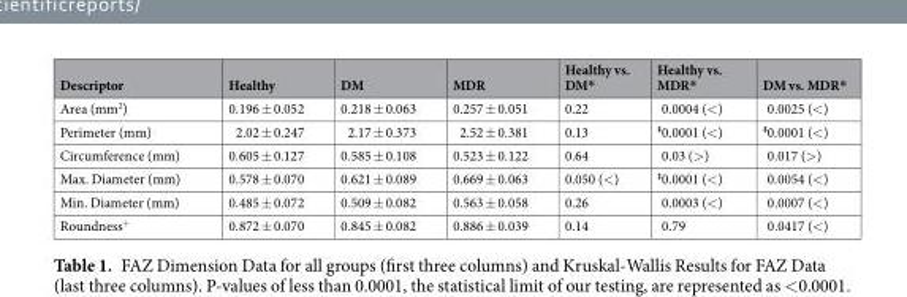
<table><thead><tr><td>Descriptor</td><td>Healthy</td><td>DM</td><td>MDR</td><td>Healthy vs. DM*</td><td>Healthy vs. MDR*</td><td>DM vs. MDR*</td></tr></thead><tbody><tr><td>Area (mm<sup>2</sup>)</td><td>0.196 ± 0.052</td><td>0.218 ± 0.063</td><td>0.257 ± 0.051</td><td>0.22</td><td>0.0004 (&lt;)</td><td>0.0025 (&lt;)</td></tr><tr><td>Perimeter (mm)</td><td>2.02 ± 0.247</td><td>2.17 ± 0.373</td><td>2.52 ± 0.381</td><td>0.13</td><td><sup>‡</sup>0.0001 (&lt;)</td><td><sup>‡</sup>0.0001 (&lt;)</td></tr><tr><td>Circumference (mm)</td><td>0.605 ± 0.127</td><td>0.585 ± 0.108</td><td>0.523 ± 0.122</td><td>0.64</td><td>0.03 (&gt;)</td><td>0.017 (&gt;)</td></tr><tr><td>Max. Diameter (mm)</td><td>0.578 ± 0.070</td><td>0.621 ± 0.089</td><td>0.669 ± 0.063</td><td>0.050 (&lt;)</td><td><sup>‡</sup>0.0001 (&lt;)</td><td>0.0054 (&lt;)</td></tr><tr><td>Min. Diameter (mm)</td><td>0.485 ± 0.072</td><td>0.509 ± 0.082</td><td>0.563 ± 0.058</td><td>0.26</td><td>0.0003 (&lt;)</td><td>0.0007 (&lt;)</td></tr><tr><td>Roundness<sup>+</sup></td><td>0.872 ± 0.070</td><td>0.845 ± 0.082</td><td>0.886 ± 0.039</td><td>0.14</td><td>0.79</td><td>0.0417 (&lt;)</td></tr></tbody></table>